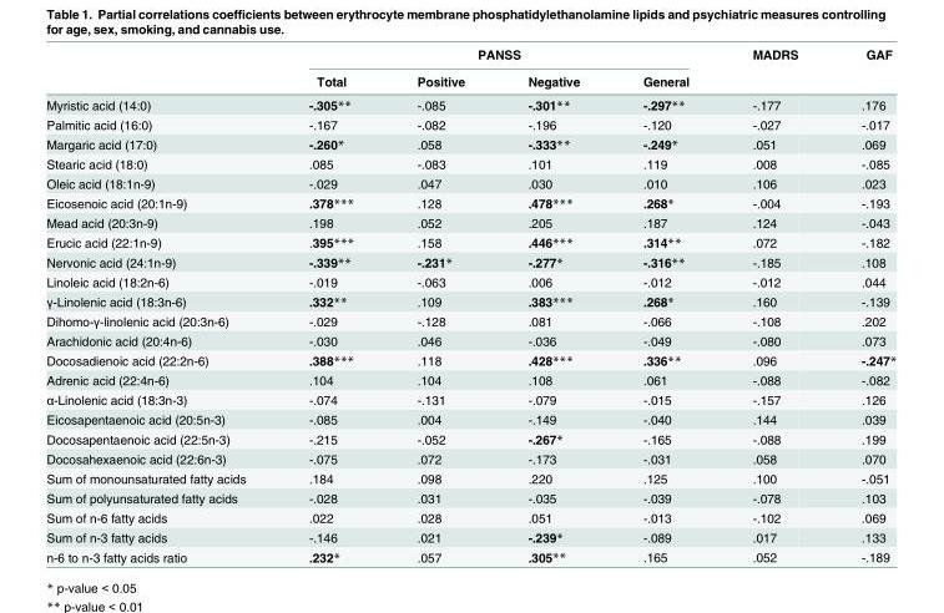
<table><thead><tr><td rowspan="2"></td><td colspan="4">PANSS</td><td rowspan="2">MADRS</td><td rowspan="2">GAF</td></tr><tr><td>Total</td><td>Positive</td><td>Negative</td><td>General</td></tr></thead><tbody><tr><td>Myristic acid (14:0)</td><td>-.305**</td><td>-.085</td><td>-.301**</td><td>-.297**</td><td>-.177</td><td>.176</td></tr><tr><td>Palmitic acid (16:0)</td><td>-.167</td><td>-.082</td><td>-.196</td><td>-.120</td><td>-.027</td><td>-.017</td></tr><tr><td>Margaric acid (17:0)</td><td>-.260*</td><td>.058</td><td>-.333**</td><td>-.249*</td><td>.051</td><td>.069</td></tr><tr><td>Stearic acid (18:0)</td><td>.085</td><td>-.083</td><td>.101</td><td>.119</td><td>.008</td><td>-.085</td></tr><tr><td>Oleic acid (18:1n-9)</td><td>-.029</td><td>.047</td><td>.030</td><td>.010</td><td>.106</td><td>.023</td></tr><tr><td>Eicosenoic acid (20:1n-9)</td><td>.378***</td><td>.128</td><td>.478***</td><td>.268*</td><td>-.004</td><td>-.193</td></tr><tr><td>Mead acid (20:3n-9)</td><td>.198</td><td>.052</td><td>.205</td><td>.187</td><td>.124</td><td>-.043</td></tr><tr><td>Erucic acid (22:1n-9)</td><td>.395***</td><td>.158</td><td>.446***</td><td>.314**</td><td>.072</td><td>-.182</td></tr><tr><td>Nervonic acid (24:1n-9)</td><td>-.339**</td><td>-.231*</td><td>-.277*</td><td>-.316**</td><td>-.185</td><td>.108</td></tr><tr><td>Linoleic acid (18:2n-6)</td><td>-.019</td><td>-.063</td><td>.006</td><td>-.012</td><td>-.012</td><td>.044</td></tr><tr><td>γ-Linolenic acid (18:3n-6)</td><td>.332**</td><td>.109</td><td>.383***</td><td>.268*</td><td>.160</td><td>-.139</td></tr><tr><td>Dihomo-γ-linolenic acid (20:3n-6)</td><td>-.029</td><td>-.128</td><td>.081</td><td>-.066</td><td>-.108</td><td>.202</td></tr><tr><td>Arachidonic acid (20:4n-6)</td><td>-.030</td><td>.046</td><td>-.036</td><td>-.049</td><td>-.080</td><td>.073</td></tr><tr><td>Docosadienoic acid (22:2n-6)</td><td>.388***</td><td>.118</td><td>.428***</td><td>.336**</td><td>.096</td><td>-.247*</td></tr><tr><td>Adrenic acid (22:4n-6)</td><td>.104</td><td>.104</td><td>.108</td><td>.061</td><td>-.088</td><td>-.082</td></tr><tr><td>α-Linolenic acid (18:3n-3)</td><td>-.074</td><td>-.131</td><td>-.079</td><td>-.015</td><td>-.157</td><td>.126</td></tr><tr><td>Eicosapentaenoic acid (20:5n-3)</td><td>-.085</td><td>.004</td><td>-.149</td><td>-.040</td><td>.144</td><td>.039</td></tr><tr><td>Docosapentaenoic acid (22:5n-3)</td><td>-.215</td><td>-.052</td><td>-.267*</td><td>-.165</td><td>-.088</td><td>.199</td></tr><tr><td>Docosahexaenoic acid (22:6n-3)</td><td>-.075</td><td>.072</td><td>-.173</td><td>-.031</td><td>.058</td><td>.070</td></tr><tr><td>Sum of monounsaturated fatty acids</td><td>.184</td><td>.098</td><td>.220</td><td>.125</td><td>.100</td><td>-.051</td></tr><tr><td>Sum of polyunsaturated fatty acids</td><td>-.028</td><td>.031</td><td>-.035</td><td>-.039</td><td>-.078</td><td>.103</td></tr><tr><td>Sum of n-6 fatty acids</td><td>.022</td><td>.028</td><td>.051</td><td>-.013</td><td>-.102</td><td>.069</td></tr><tr><td>Sum of n-3 fatty acids</td><td>-.146</td><td>.021</td><td>-.239*</td><td>-.089</td><td>.017</td><td>.133</td></tr><tr><td>n-6 to n-3 fatty acids ratio</td><td>.232*</td><td>.057</td><td>.305**</td><td>.165</td><td>.052</td><td>-.189</td></tr></tbody></table>